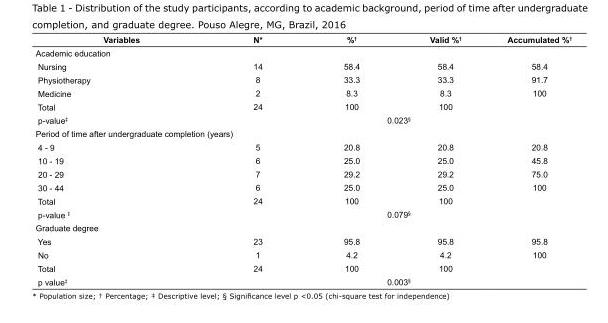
<table><tbody><tr><td>Variables</td><td>N*</td><td>%<sup>†</sup></td><td>Valid %<sup>†</sup></td><td>Accumulated %<sup>†</sup></td></tr><tr><td colspan="5">Academic education</td></tr><tr><td>Nursing</td><td>14</td><td>58.4</td><td>58.4</td><td>58.4</td></tr><tr><td>Physiotherapy</td><td>8</td><td>33.3</td><td>33.3</td><td>91.7</td></tr><tr><td>Medicine</td><td>2</td><td>8.3</td><td>8.3</td><td>100</td></tr><tr><td>Total</td><td>24</td><td>100</td><td>100</td><td></td></tr><tr><td>p-value<sup>‡</sup></td><td></td><td colspan="2">0.023<sup>§</sup></td><td></td></tr><tr><td colspan="5">Period of time after undergraduate completion (years)</td></tr><tr><td>4 - 9</td><td>5</td><td>20.8</td><td>20.8</td><td>20.8</td></tr><tr><td>10 - 19</td><td>6</td><td>25.0</td><td>25.0</td><td>45.8</td></tr><tr><td>20 - 29</td><td>7</td><td>29.2</td><td>29.2</td><td>75.0</td></tr><tr><td>30 - 44</td><td>6</td><td>25.0</td><td>25.0</td><td>100</td></tr><tr><td>Total</td><td>24</td><td>100</td><td>100</td><td></td></tr><tr><td>p-value <sup>‡</sup></td><td></td><td colspan="2">0.079<sup>§</sup></td><td></td></tr><tr><td colspan="5">Graduate degree</td></tr><tr><td>Yes</td><td>23</td><td>95.8</td><td>95.8</td><td>95.8</td></tr><tr><td>No</td><td>1</td><td>4.2</td><td>4.2</td><td>100</td></tr><tr><td>Total</td><td>24</td><td>100</td><td>100</td><td></td></tr><tr><td>p value<sup>‡</sup></td><td></td><td colspan="2">0.003<sup>§</sup></td><td></td></tr></tbody></table>